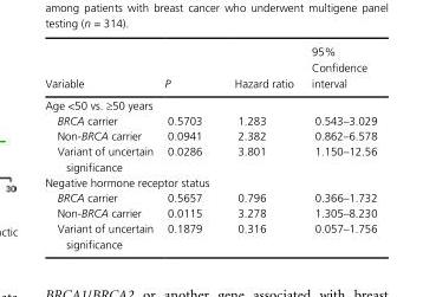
<table><thead><tr><td>Variable</td><td>P</td><td>Hazard ratio</td><td>95% Confidence interval</td></tr></thead><tbody><tr><td colspan="4">Age &lt;50 vs. ≥50 years</td></tr><tr><td>BRCA carrier</td><td>0.5703</td><td>1.283</td><td>0.543–3.029</td></tr><tr><td>Non- BRCA carrier</td><td>0.0941</td><td>2.382</td><td>0.862–6.578</td></tr><tr><td>Variant of uncertain significance</td><td>0.0286</td><td>3.801</td><td>1.150–12.56</td></tr><tr><td colspan="4">Negative hormone receptor status</td></tr><tr><td>BRCA carrier</td><td>0.5657</td><td>0.796</td><td>0.366–1.732</td></tr><tr><td>Non- BRCA carrier</td><td>0.0115</td><td>3.278</td><td>1.305–8.230</td></tr><tr><td>Variant of uncertain significance</td><td>0.1879</td><td>0.316</td><td>0.057–1.756</td></tr></tbody></table>